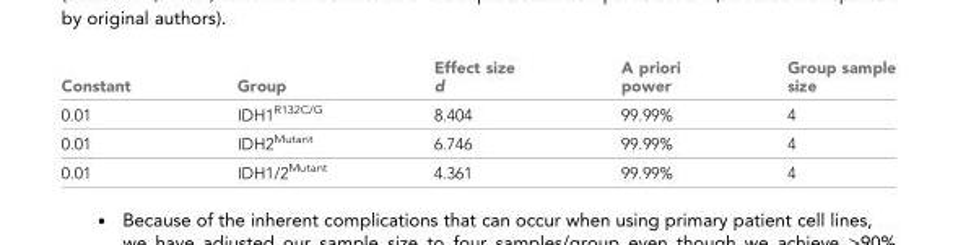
<table><thead><tr><td>Constant</td><td>Group</td><td>Effect size d</td><td>A priori power</td><td>Group sample size</td></tr></thead><tbody><tr><td>0.01</td><td>IDH1<sup>R132C/G</sup></td><td>8.404</td><td>99.99%</td><td>4</td></tr><tr><td>0.01</td><td>IDH2<sup>Mutant</sup></td><td>6.746</td><td>99.99%</td><td>4</td></tr><tr><td>0.01</td><td>IDH1/2<sup>Mutant</sup></td><td>4.361</td><td>99.99%</td><td>4</td></tr></tbody></table>